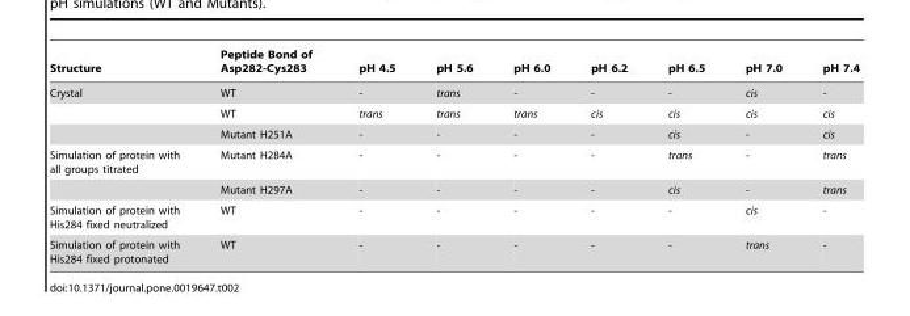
<table><thead><tr><td>Structure</td><td>Peptide Bond of Asp282-Cys283</td><td>pH 4.5</td><td>pH 5.6</td><td>pH 6.0</td><td>pH 6.2</td><td>pH 6.5</td><td>pH 7.0</td><td>pH 7.4</td></tr></thead><tbody><tr><td rowspan="3">Crystal</td><td>WT</td><td>-</td><td>trans</td><td>-</td><td>-</td><td>-</td><td>cis</td><td>-</td></tr><tr><td>WT</td><td>trans</td><td>trans</td><td>trans</td><td>cis</td><td>cis</td><td>cis</td><td>cis</td></tr><tr><td>Mutant H251A</td><td>-</td><td>-</td><td>-</td><td>-</td><td>cis</td><td>-</td><td>cis</td></tr><tr><td rowspan="2">Simulation of protein with all groups titrated</td><td>Mutant H284A</td><td>-</td><td>-</td><td>-</td><td>-</td><td>trans</td><td>-</td><td>trans</td></tr><tr><td>Mutant H297A</td><td>-</td><td>-</td><td>-</td><td>-</td><td>cis</td><td>-</td><td>trans</td></tr><tr><td>Simulation of protein with His284 fixed neutralized</td><td>WT</td><td>-</td><td>-</td><td>-</td><td>-</td><td>-</td><td>cis</td><td>-</td></tr><tr><td>Simulation of protein with His284 fixed protonated</td><td>WT</td><td>-</td><td>-</td><td>-</td><td>-</td><td>-</td><td>trans</td><td>-</td></tr></tbody></table>